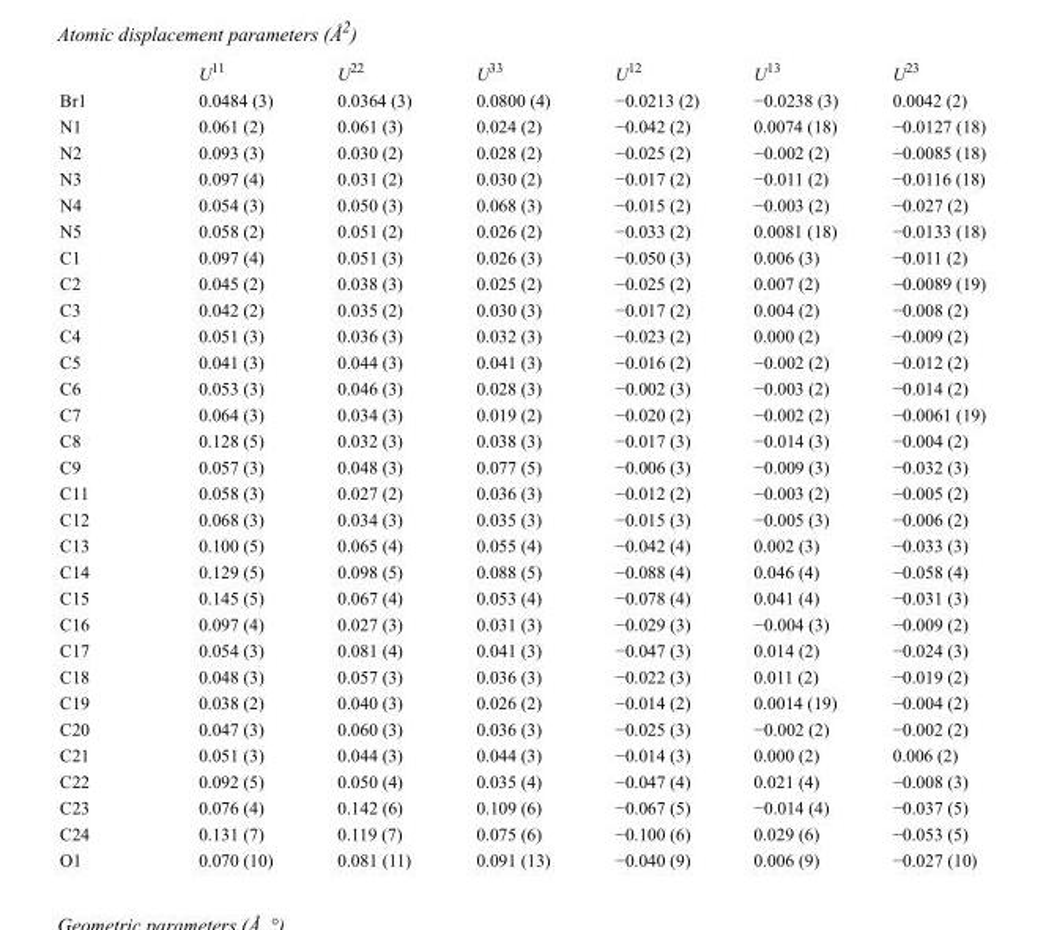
<table><thead><tr><td></td><td>U<sup>11</sup></td><td>U<sup>22</sup></td><td>U<sup>33</sup></td><td>U<sup>12</sup></td><td>U<sup>13</sup></td><td>U<sup>23</sup></td></tr></thead><tbody><tr><td>Br1</td><td>0.0484 (3)</td><td>0.0364 (3)</td><td>0.0800 (4)</td><td>−0.0213 (2)</td><td>−0.0238 (3)</td><td>0.0042 (2)</td></tr><tr><td>N1</td><td>0.061 (2)</td><td>0.061 (3)</td><td>0.024 (2)</td><td>−0.042 (2)</td><td>0.0074 (18)</td><td>−0.0127 (18)</td></tr><tr><td>N2</td><td>0.093 (3)</td><td>0.030 (2)</td><td>0.028 (2)</td><td>−0.025 (2)</td><td>−0.002 (2)</td><td>−0.0085 (18)</td></tr><tr><td>N3</td><td>0.097 (4)</td><td>0.031 (2)</td><td>0.030 (2)</td><td>−0.017 (2)</td><td>−0.011 (2)</td><td>−0.0116 (18)</td></tr><tr><td>N4</td><td>0.054 (3)</td><td>0.050 (3)</td><td>0.068 (3)</td><td>−0.015 (2)</td><td>−0.003 (2)</td><td>−0.027 (2)</td></tr><tr><td>N5</td><td>0.058 (2)</td><td>0.051 (2)</td><td>0.026 (2)</td><td>−0.033 (2)</td><td>0.0081 (18)</td><td>−0.0133 (18)</td></tr><tr><td>C1</td><td>0.097 (4)</td><td>0.051 (3)</td><td>0.026 (3)</td><td>−0.050 (3)</td><td>0.006 (3)</td><td>−0.011 (2)</td></tr><tr><td>C2</td><td>0.045 (2)</td><td>0.038 (3)</td><td>0.025 (2)</td><td>−0.025 (2)</td><td>0.007 (2)</td><td>−0.0089 (19)</td></tr><tr><td>C3</td><td>0.042 (2)</td><td>0.035 (2)</td><td>0.030 (3)</td><td>−0.017 (2)</td><td>0.004 (2)</td><td>−0.008 (2)</td></tr><tr><td>C4</td><td>0.051 (3)</td><td>0.036 (3)</td><td>0.032 (3)</td><td>−0.023 (2)</td><td>0.000 (2)</td><td>−0.009 (2)</td></tr><tr><td>C5</td><td>0.041 (3)</td><td>0.044 (3)</td><td>0.041 (3)</td><td>−0.016 (2)</td><td>−0.002 (2)</td><td>−0.012 (2)</td></tr><tr><td>C6</td><td>0.053 (3)</td><td>0.046 (3)</td><td>0.028 (3)</td><td>−0.002 (3)</td><td>−0.003 (2)</td><td>−0.014 (2)</td></tr><tr><td>C7</td><td>0.064 (3)</td><td>0.034 (3)</td><td>0.019 (2)</td><td>−0.020 (2)</td><td>−0.002 (2)</td><td>−0.0061 (19)</td></tr><tr><td>C8</td><td>0.128 (5)</td><td>0.032 (3)</td><td>0.038 (3)</td><td>−0.017 (3)</td><td>−0.014 (3)</td><td>−0.004 (2)</td></tr><tr><td>C9</td><td>0.057 (3)</td><td>0.048 (3)</td><td>0.077 (5)</td><td>−0.006 (3)</td><td>−0.009 (3)</td><td>−0.032 (3)</td></tr><tr><td>C11</td><td>0.058 (3)</td><td>0.027 (2)</td><td>0.036 (3)</td><td>−0.012 (2)</td><td>−0.003 (2)</td><td>−0.005 (2)</td></tr><tr><td>C12</td><td>0.068 (3)</td><td>0.034 (3)</td><td>0.035 (3)</td><td>−0.015 (3)</td><td>−0.005 (3)</td><td>−0.006 (2)</td></tr><tr><td>C13</td><td>0.100 (5)</td><td>0.065 (4)</td><td>0.055 (4)</td><td>−0.042 (4)</td><td>0.002 (3)</td><td>−0.033 (3)</td></tr><tr><td>C14</td><td>0.129 (5)</td><td>0.098 (5)</td><td>0.088 (5)</td><td>−0.088 (4)</td><td>0.046 (4)</td><td>−0.058 (4)</td></tr><tr><td>C15</td><td>0.145 (5)</td><td>0.067 (4)</td><td>0.053 (4)</td><td>−0.078 (4)</td><td>0.041 (4)</td><td>−0.031 (3)</td></tr><tr><td>C16</td><td>0.097 (4)</td><td>0.027 (3)</td><td>0.031 (3)</td><td>−0.029 (3)</td><td>−0.004 (3)</td><td>−0.009 (2)</td></tr><tr><td>C17</td><td>0.054 (3)</td><td>0.081 (4)</td><td>0.041 (3)</td><td>−0.047 (3)</td><td>0.014 (2)</td><td>−0.024 (3)</td></tr><tr><td>C18</td><td>0.048 (3)</td><td>0.057 (3)</td><td>0.036 (3)</td><td>−0.022 (3)</td><td>0.011 (2)</td><td>−0.019 (2)</td></tr><tr><td>C19</td><td>0.038 (2)</td><td>0.040 (3)</td><td>0.026 (2)</td><td>−0.014 (2)</td><td>0.0014 (19)</td><td>−0.004 (2)</td></tr><tr><td>C20</td><td>0.047 (3)</td><td>0.060 (3)</td><td>0.036 (3)</td><td>−0.025 (3)</td><td>−0.002 (2)</td><td>−0.002 (2)</td></tr><tr><td>C21</td><td>0.051 (3)</td><td>0.044 (3)</td><td>0.044 (3)</td><td>−0.014 (3)</td><td>0.000 (2)</td><td>0.006 (2)</td></tr><tr><td>C22</td><td>0.092 (5)</td><td>0.050 (4)</td><td>0.035 (4)</td><td>−0.047 (4)</td><td>0.021 (4)</td><td>−0.008 (3)</td></tr><tr><td>C23</td><td>0.076 (4)</td><td>0.142 (6)</td><td>0.109 (6)</td><td>−0.067 (5)</td><td>−0.014 (4)</td><td>−0.037 (5)</td></tr><tr><td>C24</td><td>0.131 (7)</td><td>0.119 (7)</td><td>0.075 (6)</td><td>−0.100 (6)</td><td>0.029 (6)</td><td>−0.053 (5)</td></tr><tr><td>O1</td><td>0.070 (10)</td><td>0.081 (11)</td><td>0.091 (13)</td><td>−0.040 (9)</td><td>0.006 (9)</td><td>−0.027 (10)</td></tr></tbody></table>